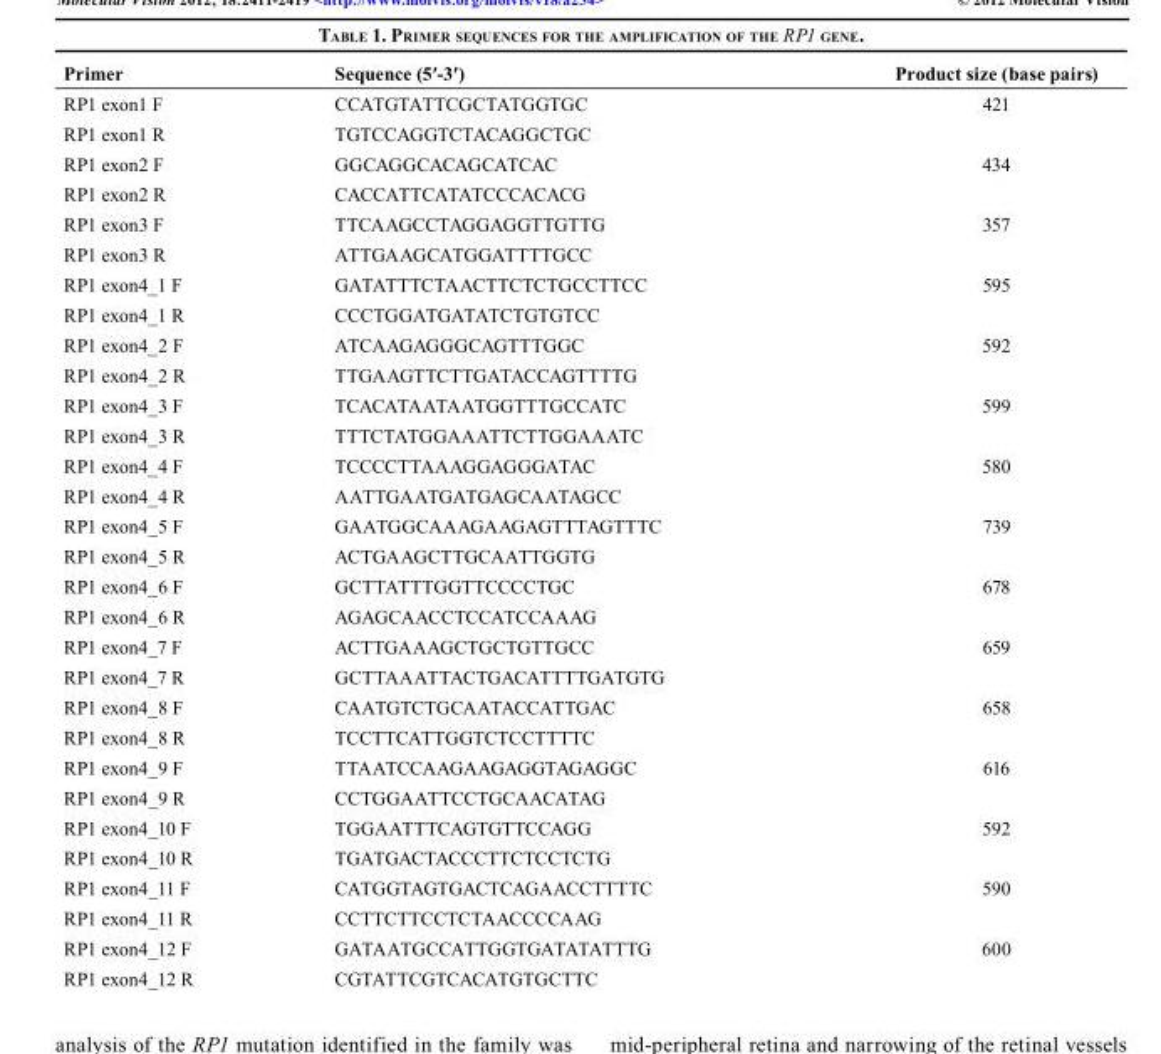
<table><thead><tr><td>Primer</td><td>Sequence (5′-3′)</td><td>Product size (base pairs)</td></tr></thead><tbody><tr><td>RP1 exon1 F</td><td>CCATGTATTCGCTATGGTGC</td><td>421</td></tr><tr><td>RP1 exon1 R</td><td>TGTCCAGGTCTACAGGCTGC</td><td></td></tr><tr><td>RP1 exon2 F</td><td>GGCAGGCACAGCATCAC</td><td>434</td></tr><tr><td>RP1 exon2 R</td><td>CACCATTCATATCCCACACG</td><td></td></tr><tr><td>RP1 exon3 F</td><td>TTCAAGCCTAGGAGGTTGTTG</td><td>357</td></tr><tr><td>RP1 exon3 R</td><td>ATTGAAGCATGGATTTTGCC</td><td></td></tr><tr><td>RP1 exon4_1 F</td><td>GATATTTCTAACTTCTCTGCCTTCC</td><td>595</td></tr><tr><td>RP1 exon4_1 R</td><td>CCCTGGATGATATCTGTGTCC</td><td></td></tr><tr><td>RP1 exon4_2 F</td><td>ATCAAGAGGGCAGTTTGGC</td><td>592</td></tr><tr><td>RP1 exon4_2 R</td><td>TTGAAGTTCTTGATACCAGTTTTG</td><td></td></tr><tr><td>RP1 exon4_3 F</td><td>TCACATAATAATGGTTTGCCATC</td><td>599</td></tr><tr><td>RP1 exon4_3 R</td><td>TTTCTATGGAAATTCTTGGAAATC</td><td></td></tr><tr><td>RP1 exon4_4 F</td><td>TCCCCTTAAAGGAGGGATAC</td><td>580</td></tr><tr><td>RP1 exon4_4 R</td><td>AATTGAATGATGAGCAATAGCC</td><td></td></tr><tr><td>RP1 exon4_5 F</td><td>GAATGGCAAAGAAGAGTTTAGTTTC</td><td>739</td></tr><tr><td>RP1 exon4_5 R</td><td>ACTGAAGCTTGCAATTGGTG</td><td></td></tr><tr><td>RP1 exon4_6 F</td><td>GCTTATTTGGTTCCCCTGC</td><td>678</td></tr><tr><td>RP1 exon4_6 R</td><td>AGAGCAACCTCCATCCAAAG</td><td></td></tr><tr><td>RP1 exon4_7 F</td><td>ACTTGAAAGCTGCTGTTGCC</td><td>659</td></tr><tr><td>RP1 exon4_7 R</td><td>GCTTAAATTACTGACATTTTGATGTG</td><td></td></tr><tr><td>RP1 exon4_8 F</td><td>CAATGTCTGCAATACCATTGAC</td><td>658</td></tr><tr><td>RP1 exon4_8 R</td><td>TCCTTCATTGGTCTCCTTTTC</td><td></td></tr><tr><td>RP1 exon4_9 F</td><td>TTAATCCAAGAAGAGGTAGAGGC</td><td>616</td></tr><tr><td>RP1 exon4_9 R</td><td>CCTGGAATTCCTGCAACATAG</td><td></td></tr><tr><td>RP1 exon4_10 F</td><td>TGGAATTTCAGTGTTCCAGG</td><td>592</td></tr><tr><td>RP1 exon4_10 R</td><td>TGATGACTACCCTTCTCCTCTG</td><td></td></tr><tr><td>RP1 exon4_11 F</td><td>CATGGTAGTGACTCAGAACCTTTTC</td><td>590</td></tr><tr><td>RP1 exon4_11 R</td><td>CCTTCTTCCTCTAACCCCAAG</td><td></td></tr><tr><td>RP1 exon4_12 F</td><td>GATAATGCCATTGGTGATATATTTG</td><td>600</td></tr><tr><td>RP1 exon4_12 R</td><td>CGTATTCGTCACATGTGCTTC</td><td></td></tr></tbody></table>